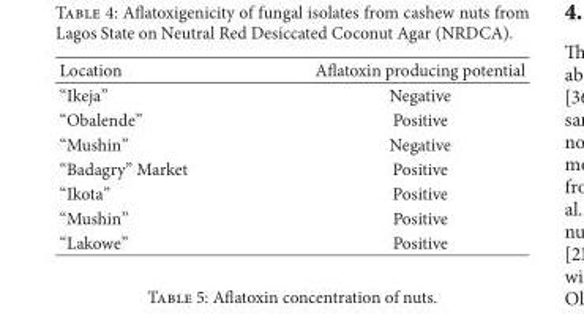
<table><tbody><tr><td>Location</td><td>Aflatoxin producing potential</td></tr><tr><td>“Ikeja”</td><td>Negative</td></tr><tr><td>“Obalende”</td><td>Positive</td></tr><tr><td>“Mushin”</td><td>Negative</td></tr><tr><td>“Badagry” Market</td><td>Positive</td></tr><tr><td>“Ikota”</td><td>Positive</td></tr><tr><td>“Mushin”</td><td>Positive</td></tr><tr><td>“Lakowe”</td><td>Positive</td></tr></tbody></table>